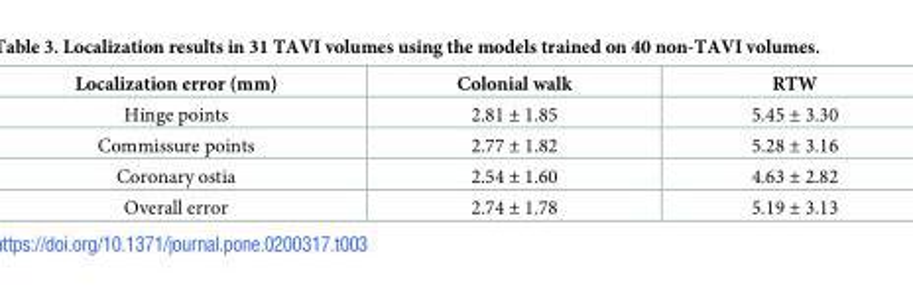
<table><thead><tr><td>Localization error (mm)</td><td>Colonial walk</td><td>RTW</td></tr></thead><tbody><tr><td>Hinge points</td><td>2.81 ± 1.85</td><td>5.45 ± 3.30</td></tr><tr><td>Commissure points</td><td>2.77 ± 1.82</td><td>5.28 ± 3.16</td></tr><tr><td>Coronary ostia</td><td>2.54 ± 1.60</td><td>4.63 ± 2.82</td></tr><tr><td>Overall error</td><td>2.74 ± 1.78</td><td>5.19 ± 3.13</td></tr></tbody></table>